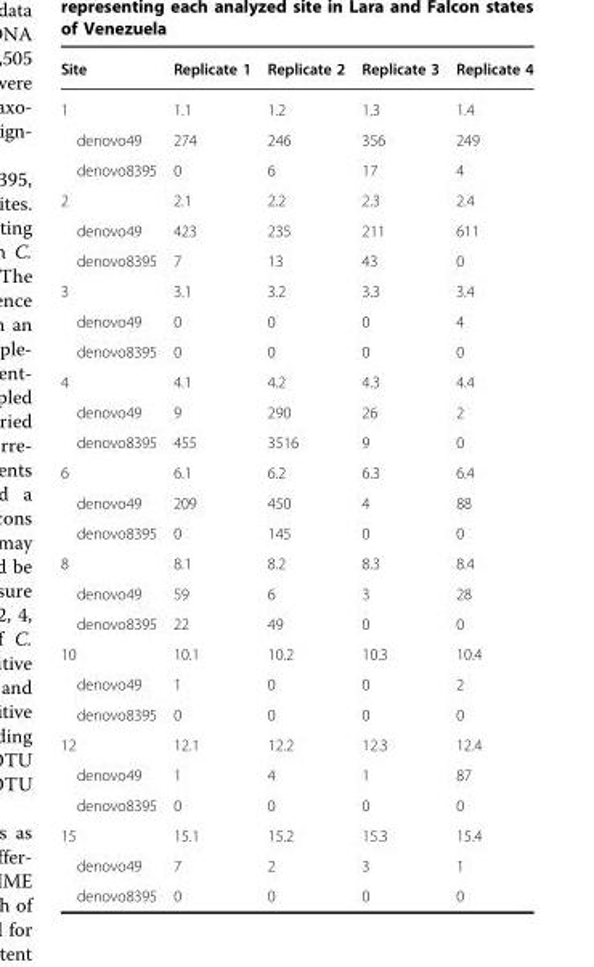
<table><thead><tr><td>Site</td><td>Replicate 1</td><td>Replicate 2</td><td>Replicate 3</td><td>Replicate 4</td></tr></thead><tbody><tr><td>1</td><td>1.1</td><td>1.2</td><td>1.3</td><td>1.4</td></tr><tr><td>denovo49</td><td>274</td><td>246</td><td>356</td><td>249</td></tr><tr><td>denovo8395</td><td>0</td><td>6</td><td>17</td><td>4</td></tr><tr><td>2</td><td>2.1</td><td>2.2</td><td>2.3</td><td>2.4</td></tr><tr><td>denovo49</td><td>423</td><td>235</td><td>211</td><td>611</td></tr><tr><td>denovo8395</td><td>7</td><td>13</td><td>43</td><td>0</td></tr><tr><td>3</td><td>3.1</td><td>3.2</td><td>3.3</td><td>3.4</td></tr><tr><td>denovo49</td><td>0</td><td>0</td><td>0</td><td>4</td></tr><tr><td>denovo8395</td><td>0</td><td>0</td><td>0</td><td>0</td></tr><tr><td>4</td><td>4.1</td><td>4.2</td><td>4.3</td><td>4.4</td></tr><tr><td>denovo49</td><td>9</td><td>290</td><td>26</td><td>2</td></tr><tr><td>denovo8395</td><td>455</td><td>3516</td><td>9</td><td>0</td></tr><tr><td>6</td><td>6.1</td><td>6.2</td><td>6.3</td><td>6.4</td></tr><tr><td>denovo49</td><td>209</td><td>450</td><td>4</td><td>88</td></tr><tr><td>denovo8395</td><td>0</td><td>145</td><td>0</td><td>0</td></tr><tr><td>8</td><td>8.1</td><td>8.2</td><td>8.3</td><td>8.4</td></tr><tr><td>denovo49</td><td>59</td><td>6</td><td>3</td><td>28</td></tr><tr><td>denovo8395</td><td>22</td><td>49</td><td>0</td><td>0</td></tr><tr><td>10</td><td>10.1</td><td>10.2</td><td>10.3</td><td>10.4</td></tr><tr><td>denovo49</td><td>1</td><td>0</td><td>0</td><td>2</td></tr><tr><td>denovo8395</td><td>0</td><td>0</td><td>0</td><td>0</td></tr><tr><td>12</td><td>12.1</td><td>12.2</td><td>12.3</td><td>12.4</td></tr><tr><td>denovo49</td><td>1</td><td>4</td><td>1</td><td>87</td></tr><tr><td>denovo8395</td><td>0</td><td>0</td><td>0</td><td>0</td></tr><tr><td>15</td><td>15.1</td><td>15.2</td><td>15.3</td><td>15.4</td></tr><tr><td>denovo49</td><td>7</td><td>2</td><td>3</td><td>1</td></tr><tr><td>denovo8395</td><td>0</td><td>0</td><td>0</td><td>0</td></tr></tbody></table>